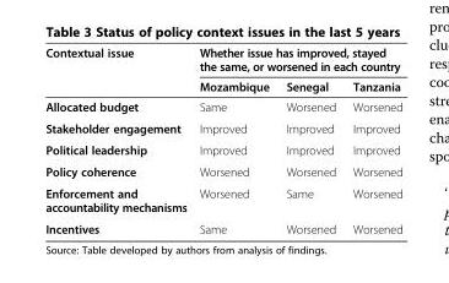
<table><thead><tr><td rowspan="2">Contextual issue</td><td colspan="3">Whether issue has improved, stayed the same, or worsened in each country</td></tr><tr><td>Mozambique</td><td>Senegal</td><td>Tanzania</td></tr></thead><tbody><tr><td>Allocated budget</td><td>Same</td><td>Worsened</td><td>Worsened</td></tr><tr><td>Stakeholder engagement</td><td>Improved</td><td>Improved</td><td>Improved</td></tr><tr><td>Political leadership</td><td>Improved</td><td>Improved</td><td>Improved</td></tr><tr><td>Policy coherence</td><td>Worsened</td><td>Worsened</td><td>Worsened</td></tr><tr><td>Enforcement and accountability mechanisms</td><td>Worsened</td><td>Same</td><td>Worsened</td></tr><tr><td>Incentives</td><td>Same</td><td>Worsened</td><td>Worsened</td></tr></tbody></table>